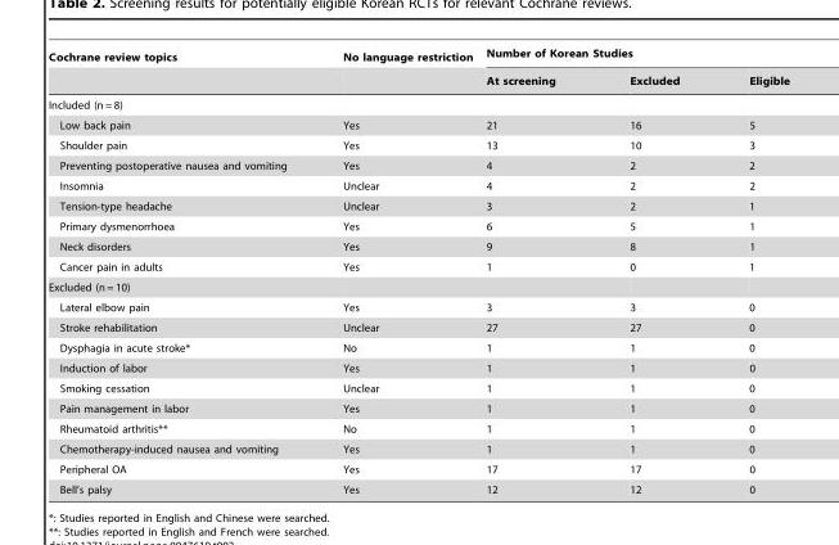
<table><thead><tr><td rowspan="2">Cochrane review topics</td><td rowspan="2">No language restriction</td><td colspan="3">Number of Korean Studies</td></tr><tr><td>At screening</td><td>Excluded</td><td>Eligible</td></tr></thead><tbody><tr><td colspan="5">Included (n = 8)</td></tr><tr><td>Low back pain</td><td>Yes</td><td>21</td><td>16</td><td>5</td></tr><tr><td>Shoulder pain</td><td>Yes</td><td>13</td><td>10</td><td>3</td></tr><tr><td>Preventing postoperative nausea and vomiting</td><td>Yes</td><td>4</td><td>2</td><td>2</td></tr><tr><td>Insomnia</td><td>Unclear</td><td>4</td><td>2</td><td>2</td></tr><tr><td>Tension-type headache</td><td>Unclear</td><td>3</td><td>2</td><td>1</td></tr><tr><td>Primary dysmenorrhoea</td><td>Yes</td><td>6</td><td>5</td><td>1</td></tr><tr><td>Neck disorders</td><td>Yes</td><td>9</td><td>8</td><td>1</td></tr><tr><td>Cancer pain in adults</td><td>Yes</td><td>1</td><td>0</td><td>1</td></tr><tr><td colspan="5">Excluded (n = 10)</td></tr><tr><td>Lateral elbow pain</td><td>Yes</td><td>3</td><td>3</td><td>0</td></tr><tr><td>Stroke rehabilitation</td><td>Unclear</td><td>27</td><td>27</td><td>0</td></tr><tr><td>Dysphagia in acute stroke*</td><td>No</td><td>1</td><td>1</td><td>0</td></tr><tr><td>Induction of labor</td><td>Yes</td><td>1</td><td>1</td><td>0</td></tr><tr><td>Smoking cessation</td><td>Unclear</td><td>1</td><td>1</td><td>0</td></tr><tr><td>Pain management in labor</td><td>Yes</td><td>1</td><td>1</td><td>0</td></tr><tr><td>Rheumatoid arthritis**</td><td>No</td><td>1</td><td>1</td><td>0</td></tr><tr><td>Chemotherapy-induced nausea and vomiting</td><td>Yes</td><td>1</td><td>1</td><td>0</td></tr><tr><td>Peripheral OA</td><td>Yes</td><td>17</td><td>17</td><td>0</td></tr><tr><td>Bell’s palsy</td><td>Yes</td><td>12</td><td>12</td><td>0</td></tr></tbody></table>